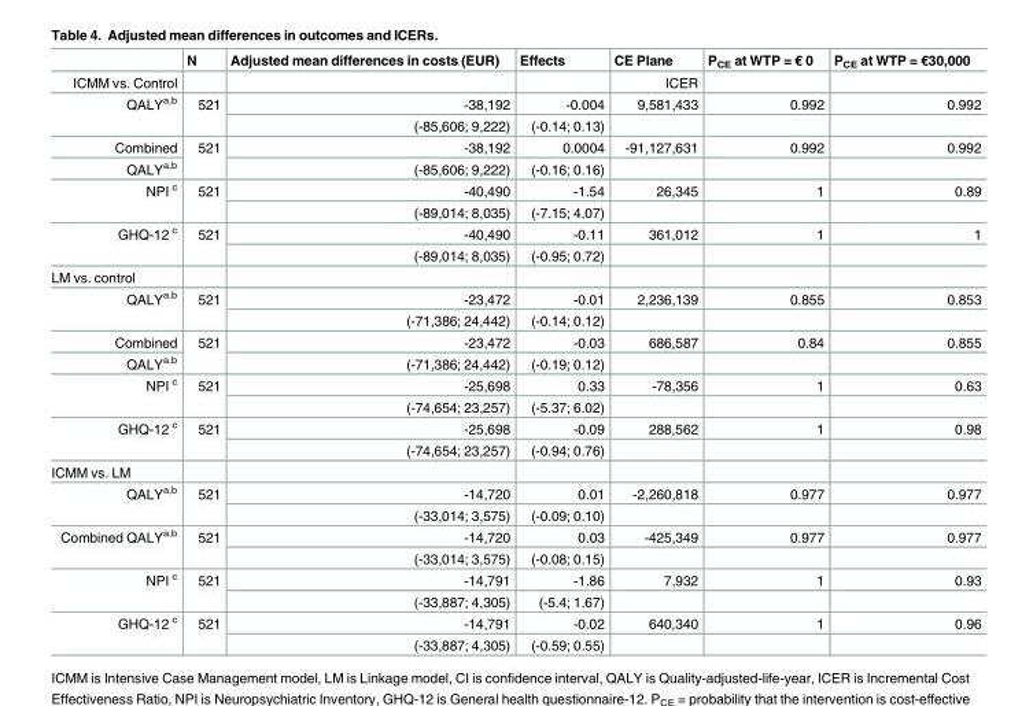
<table><thead><tr><td></td><td>N</td><td>Adjusted mean differences in costs (EUR)</td><td>Effects</td><td>CE Plane</td><td>P<sub>CE</sub> at WTP = € 0</td><td>P<sub>CE</sub> at WTP = €30,000</td></tr></thead><tbody><tr><td>ICMM vs. Control</td><td></td><td></td><td></td><td>ICER</td><td></td><td></td></tr><tr><td rowspan="2">QALY<sup>a,b</sup></td><td rowspan="2">521</td><td>-38,192</td><td>-0.004</td><td>9,581,433</td><td>0.992</td><td>0.992</td></tr><tr><td>(-85,606; 9,222)</td><td>(-0.14; 0.13)</td><td></td><td></td><td></td></tr><tr><td>Combined</td><td rowspan="2">521</td><td>-38,192</td><td>0.0004</td><td>-91,127,631</td><td>0.992</td><td>0.992</td></tr><tr><td>QALY<sup>a,b</sup></td><td>(-85,606; 9,222)</td><td>(-0.16; 0.16)</td><td></td><td></td><td></td></tr><tr><td rowspan="2">NPI <sup>c</sup></td><td rowspan="2">521</td><td>-40,490</td><td>-1.54</td><td>26,345</td><td>1</td><td>0.89</td></tr><tr><td>(-89,014; 8,035)</td><td>(-7.15; 4.07)</td><td></td><td></td><td></td></tr><tr><td rowspan="2">GHQ-12 <sup>c</sup></td><td rowspan="2">521</td><td>-40,490</td><td>-0.11</td><td>361,012</td><td>1</td><td>1</td></tr><tr><td>(-89,014; 8,035)</td><td>(-0.95; 0.72)</td><td></td><td></td><td></td></tr><tr><td colspan="7">LM vs. control</td></tr><tr><td rowspan="2">QALY<sup>a,b</sup></td><td rowspan="2">521</td><td>-23,472</td><td>-0.01</td><td>2,236,139</td><td>0.855</td><td>0.853</td></tr><tr><td>(-71,386; 24,442)</td><td>(-0.14; 0.12)</td><td></td><td></td><td></td></tr><tr><td>Combined</td><td rowspan="2">521</td><td>-23,472</td><td>-0.03</td><td>686,587</td><td>0.84</td><td>0.855</td></tr><tr><td>QALY<sup>a,b</sup></td><td>(-71,386; 24,442)</td><td>(-0.19; 0.12)</td><td></td><td></td><td></td></tr><tr><td rowspan="2">NPI <sup>c</sup></td><td rowspan="2">521</td><td>-25,698</td><td>0.33</td><td>-78,356</td><td>1</td><td>0.63</td></tr><tr><td>(-74,654; 23,257)</td><td>(-5.37; 6.02)</td><td></td><td></td><td></td></tr><tr><td rowspan="2">GHQ-12 <sup>c</sup></td><td rowspan="2">521</td><td>-25,698</td><td>-0.09</td><td>288,562</td><td>1</td><td>0.98</td></tr><tr><td>(-74,654; 23,257)</td><td>(-0.94; 0.76)</td><td></td><td></td><td></td></tr><tr><td colspan="7">ICMM vs. LM</td></tr><tr><td rowspan="2">QALY<sup>a,b</sup></td><td rowspan="2">521</td><td>-14,720</td><td>0.01</td><td>-2,260,818</td><td>0.977</td><td>0.977</td></tr><tr><td>(-33,014; 3,575)</td><td>(-0.09; 0.10)</td><td></td><td></td><td></td></tr><tr><td rowspan="2">Combined QALY<sup>a,b</sup></td><td rowspan="2">521</td><td>-14,720</td><td>0.03</td><td>-425,349</td><td>0.977</td><td>0.977</td></tr><tr><td>(-33,014; 3,575)</td><td>(-0.08; 0.15)</td><td></td><td></td><td></td></tr><tr><td rowspan="2">NPI <sup>c</sup></td><td rowspan="2">521</td><td>-14,791</td><td>-1.86</td><td>7,932</td><td>1</td><td>0.93</td></tr><tr><td>(-33,887; 4,305)</td><td>(-5.4; 1.67)</td><td></td><td></td><td></td></tr><tr><td rowspan="2">GHQ-12 <sup>c</sup></td><td rowspan="2">521</td><td>-14,791</td><td>-0.02</td><td>640,340</td><td>1</td><td>0.96</td></tr><tr><td>(-33,887; 4,305)</td><td>(-0.59; 0.55)</td><td></td><td></td><td></td></tr></tbody></table>